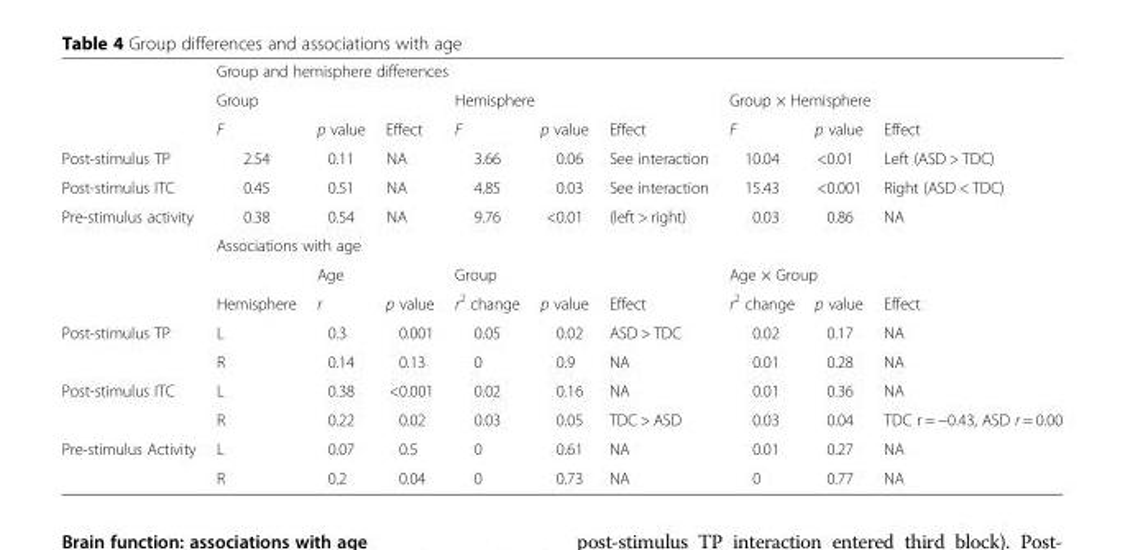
<table><thead><tr><td rowspan="3"></td><td colspan="9">Group and hemisphere differences</td></tr><tr><td colspan="3">Group</td><td colspan="3">Hemisphere</td><td colspan="3">Group × Hemisphere</td></tr><tr><td>F</td><td>p value</td><td>Effect</td><td>F</td><td>p value</td><td>Effect</td><td>F</td><td>p value</td><td>Effect</td></tr></thead><tbody><tr><td>Post-stimulus TP</td><td>2.54</td><td>0.11</td><td>NA</td><td>3.66</td><td>0.06</td><td>See interaction</td><td>10.04</td><td>&lt;0.01</td><td>Left (ASD &gt; TDC)</td></tr><tr><td>Post-stimulus ITC</td><td>0.45</td><td>0.51</td><td>NA</td><td>4.85</td><td>0.03</td><td>See interaction</td><td>15.43</td><td>&lt;0.001</td><td>Right (ASD &lt; TDC)</td></tr><tr><td rowspan="4">Pre-stimulus activity</td><td>0.38</td><td>0.54</td><td>NA</td><td>9.76</td><td>&lt;0.01</td><td>(left &gt; right)</td><td>0.03</td><td>0.86</td><td>NA</td></tr><tr><td colspan="9">Associations with age</td></tr><tr><td></td><td colspan="2">Age</td><td colspan="3">Group</td><td colspan="3">Age × Group</td></tr><tr><td>Hemisphere</td><td>r</td><td>p value</td><td>r<sup>2</sup> change</td><td>p value</td><td>Effect</td><td>r<sup>2</sup> change</td><td>p value</td><td>Effect</td></tr><tr><td rowspan="2">Post-stimulus TP</td><td>L</td><td>0.3</td><td>0.001</td><td>0.05</td><td>0.02</td><td>ASD &gt; TDC</td><td>0.02</td><td>0.17</td><td>NA</td></tr><tr><td>R</td><td>0.14</td><td>0.13</td><td>0</td><td>0.9</td><td>NA</td><td>0.01</td><td>0.28</td><td>NA</td></tr><tr><td rowspan="2">Post-stimulus ITC</td><td>L</td><td>0.38</td><td>&lt;0.001</td><td>0.02</td><td>0.16</td><td>NA</td><td>0.01</td><td>0.36</td><td>NA</td></tr><tr><td>R</td><td>0.22</td><td>0.02</td><td>0.03</td><td>0.05</td><td>TDC &gt; ASD</td><td>0.03</td><td>0.04</td><td>TDC r = −0.43, ASD r = 0.00</td></tr><tr><td rowspan="2">Pre-stimulus Activity</td><td>L</td><td>0.07</td><td>0.5</td><td>0</td><td>0.61</td><td>NA</td><td>0.01</td><td>0.27</td><td>NA</td></tr><tr><td>R</td><td>0.2</td><td>0.04</td><td>0</td><td>0.73</td><td>NA</td><td>0</td><td>0.77</td><td>NA</td></tr></tbody></table>